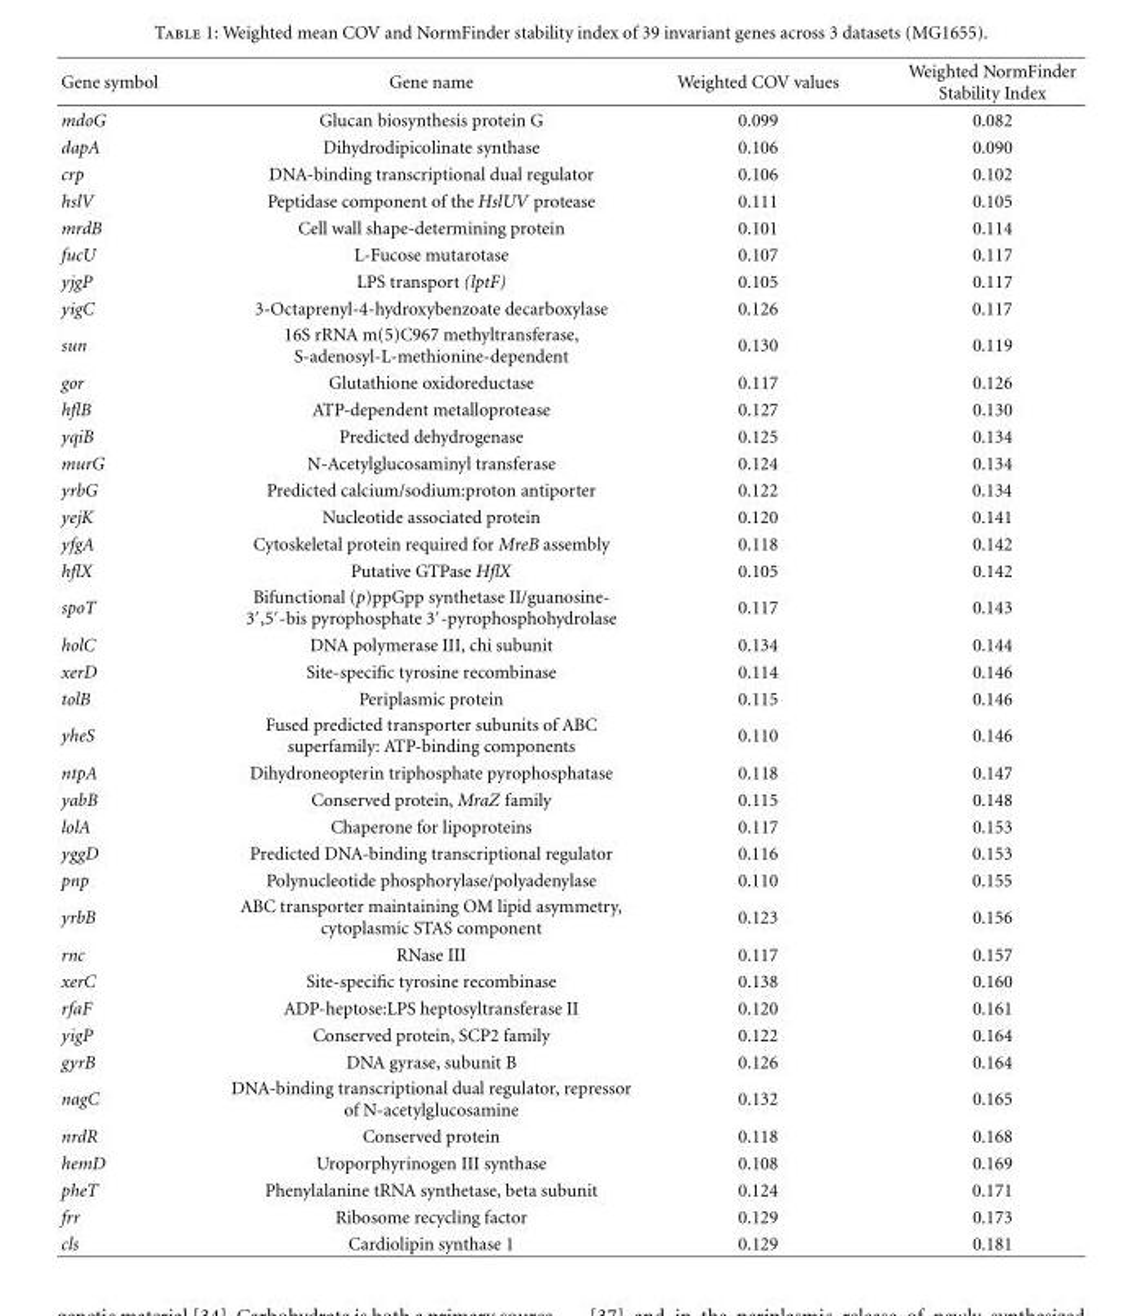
<table><thead><tr><td>Gene symbol</td><td>Gene name</td><td>Weighted COV values</td><td>Weighted NormFinder Stability Index</td></tr></thead><tbody><tr><td>mdoG</td><td>Glucan biosynthesis protein G</td><td>0.099</td><td>0.082</td></tr><tr><td>dapA</td><td>Dihydrodipicolinate synthase</td><td>0.106</td><td>0.090</td></tr><tr><td>crp</td><td>DNA-binding transcriptional dual regulator</td><td>0.106</td><td>0.102</td></tr><tr><td>hslV</td><td>Peptidase component of the HslUV protease</td><td>0.111</td><td>0.105</td></tr><tr><td>mrdB</td><td>Cell wall shape-determining protein</td><td>0.101</td><td>0.114</td></tr><tr><td>fucU</td><td>L-Fucose mutarotase</td><td>0.107</td><td>0.117</td></tr><tr><td>yjgP</td><td>LPS transport (lptF)</td><td>0.105</td><td>0.117</td></tr><tr><td>yigC</td><td>3-Octaprenyl-4-hydroxybenzoate decarboxylase</td><td>0.126</td><td>0.117</td></tr><tr><td>sun</td><td>16S rRNA m(5)C967 methyltransferase, S-adenosyl-L-methionine-dependent</td><td>0.130</td><td>0.119</td></tr><tr><td>gor</td><td>Glutathione oxidoreductase</td><td>0.117</td><td>0.126</td></tr><tr><td>hflB</td><td>ATP-dependent metalloprotease</td><td>0.127</td><td>0.130</td></tr><tr><td>yqiB</td><td>Predicted dehydrogenase</td><td>0.125</td><td>0.134</td></tr><tr><td>murG</td><td>N-Acetylglucosaminyl transferase</td><td>0.124</td><td>0.134</td></tr><tr><td>yrbG</td><td>Predicted calcium/sodium:proton antiporter</td><td>0.122</td><td>0.134</td></tr><tr><td>yejK</td><td>Nucleotide associated protein</td><td>0.120</td><td>0.141</td></tr><tr><td>yfgA</td><td>Cytoskeletal protein required for MreB assembly</td><td>0.118</td><td>0.142</td></tr><tr><td>hflX</td><td>Putative GTPase HflX</td><td>0.105</td><td>0.142</td></tr><tr><td>spoT</td><td>Bifunctional (p)ppGpp synthetase II/guanosine- 3′,5′-bis pyrophosphate 3′-pyrophosphohydrolase</td><td>0.117</td><td>0.143</td></tr><tr><td>holC</td><td>DNA polymerase III, chi subunit</td><td>0.134</td><td>0.144</td></tr><tr><td>xerD</td><td>Site-specific tyrosine recombinase</td><td>0.114</td><td>0.146</td></tr><tr><td>tolB</td><td>Periplasmic protein</td><td>0.115</td><td>0.146</td></tr><tr><td>yheS</td><td>Fused predicted transporter subunits of ABC superfamily: ATP-binding components</td><td>0.110</td><td>0.146</td></tr><tr><td>ntpA</td><td>Dihydroneopterin triphosphate pyrophosphatase</td><td>0.118</td><td>0.147</td></tr><tr><td>yabB</td><td>Conserved protein, MraZ family</td><td>0.115</td><td>0.148</td></tr><tr><td>lolA</td><td>Chaperone for lipoproteins</td><td>0.117</td><td>0.153</td></tr><tr><td>yggD</td><td>Predicted DNA-binding transcriptional regulator</td><td>0.116</td><td>0.153</td></tr><tr><td>pnp</td><td>Polynucleotide phosphorylase/polyadenylase</td><td>0.110</td><td>0.155</td></tr><tr><td>yrbB</td><td>ABC transporter maintaining OM lipid asymmetry, cytoplasmic STAS component</td><td>0.123</td><td>0.156</td></tr><tr><td>rnc</td><td>RNase III</td><td>0.117</td><td>0.157</td></tr><tr><td>xerC</td><td>Site-specific tyrosine recombinase</td><td>0.138</td><td>0.160</td></tr><tr><td>rfaF</td><td>ADP-heptose:LPS heptosyltransferase II</td><td>0.120</td><td>0.161</td></tr><tr><td>yigP</td><td>Conserved protein, SCP2 family</td><td>0.122</td><td>0.164</td></tr><tr><td>gyrB</td><td>DNA gyrase, subunit B</td><td>0.126</td><td>0.164</td></tr><tr><td>nagC</td><td>DNA-binding transcriptional dual regulator, repressor of N-acetylglucosamine</td><td>0.132</td><td>0.165</td></tr><tr><td>nrdR</td><td>Conserved protein</td><td>0.118</td><td>0.168</td></tr><tr><td>hemD</td><td>Uroporphyrinogen III synthase</td><td>0.108</td><td>0.169</td></tr><tr><td>pheT</td><td>Phenylalanine tRNA synthetase, beta subunit</td><td>0.124</td><td>0.171</td></tr><tr><td>frr</td><td>Ribosome recycling factor</td><td>0.129</td><td>0.173</td></tr><tr><td>cls</td><td>Cardiolipin synthase 1</td><td>0.129</td><td>0.181</td></tr></tbody></table>